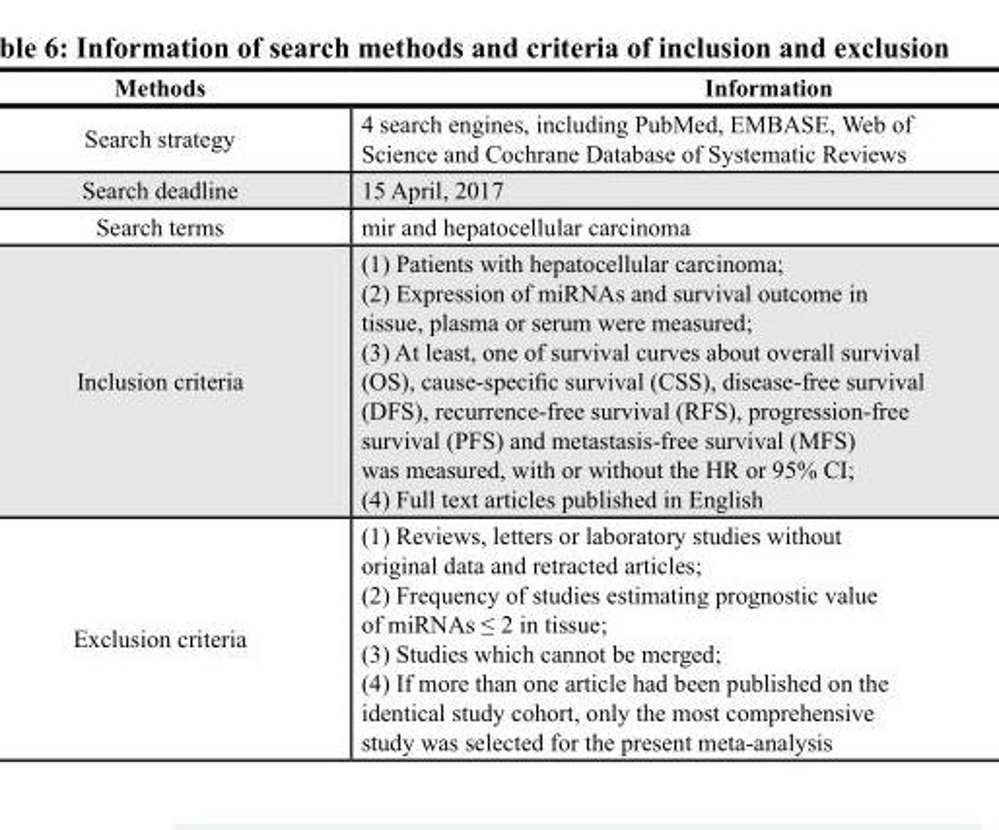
<table><thead><tr><td>Methods</td><td>Information</td></tr></thead><tbody><tr><td>Search strategy</td><td>4 search engines, including PubMed, EMBASE, Web of Science and Cochrane Database of Systematic Reviews</td></tr><tr><td>Search deadline</td><td>15 April, 2017</td></tr><tr><td>Search terms</td><td>mir and hepatocellular carcinoma</td></tr><tr><td>Inclusion criteria</td><td>(1) Patients with hepatocellular carcinoma; (2) Expression of miRNAs and survival outcome in tissue, plasma or serum were measured; (3) At least, one of survival curves about overall survival (OS), cause-specific survival (CSS), disease-free survival (DFS), recurrence-free survival (RFS), progression-free survival (PFS) and metastasis-free survival (MFS) was measured, with or without the HR or 95% CI; (4) Full text articles published in English</td></tr><tr><td>Exclusion criteria</td><td>(1) Reviews, letters or laboratory studies without original data and retracted articles; (2) Frequency of studies estimating prognostic value of miRNAs ≤ 2 in tissue; (3) Studies which cannot be merged; (4) If more than one article had been published on the identical study cohort, only the most comprehensive study was selected for the present meta-analysis</td></tr></tbody></table>